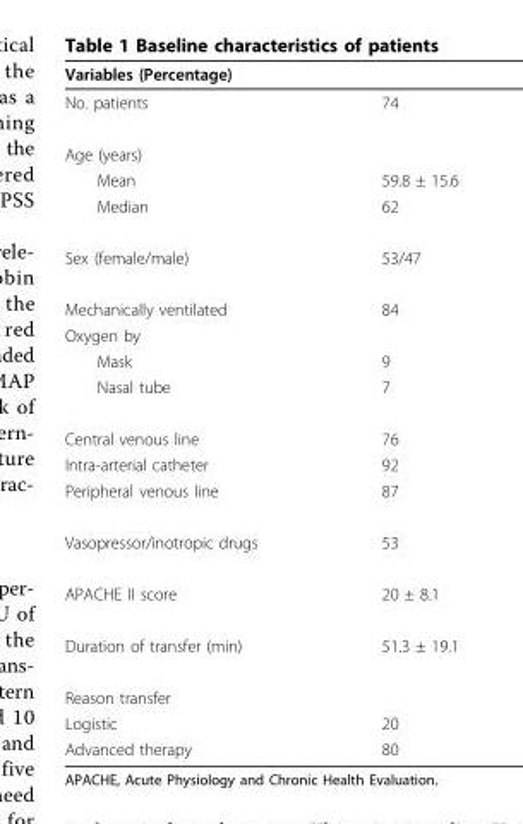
<table><thead><tr><td colspan="2">Variables (Percentage)</td></tr><tr><td>No. patients</td><td>74</td></tr></thead><tbody><tr><td colspan="2">Age (years)</td></tr><tr><td>Mean</td><td>59.8 ± 15.6</td></tr><tr><td>Median</td><td>62</td></tr><tr><td>Sex (female/male)</td><td>53/47</td></tr><tr><td>Mechanically ventilated</td><td>84</td></tr><tr><td colspan="2">Oxygen by</td></tr><tr><td>Mask</td><td>9</td></tr><tr><td>Nasal tube</td><td>7</td></tr><tr><td>Central venous line</td><td>76</td></tr><tr><td>Intra-arterial catheter</td><td>92</td></tr><tr><td>Peripheral venous line</td><td>87</td></tr><tr><td>Vasopressor/inotropic drugs</td><td>53</td></tr><tr><td>APACHE II score</td><td>20 ± 8.1</td></tr><tr><td>Duration of transfer (min)</td><td>51.3 ± 19.1</td></tr><tr><td colspan="2">Reason transfer</td></tr><tr><td>Logistic</td><td>20</td></tr><tr><td>Advanced therapy</td><td>80</td></tr></tbody></table>